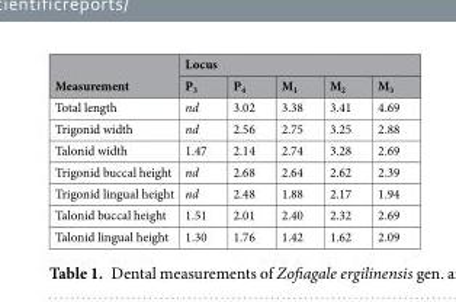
<table><thead><tr><td rowspan="2">Measurement</td><td colspan="5">Locus</td></tr><tr><td>P<sub>3</sub></td><td>P<sub>4</sub></td><td>M<sub>1</sub></td><td>M<sub>2</sub></td><td>M<sub>3</sub></td></tr></thead><tbody><tr><td>Total length</td><td>nd</td><td>3.02</td><td>3.38</td><td>3.41</td><td>4.69</td></tr><tr><td>Trigonid width</td><td>nd</td><td>2.56</td><td>2.75</td><td>3.25</td><td>2.88</td></tr><tr><td>Talonid width</td><td>1.47</td><td>2.14</td><td>2.74</td><td>3.28</td><td>2.69</td></tr><tr><td>Trigonid buccal height</td><td>nd</td><td>2.68</td><td>2.64</td><td>2.62</td><td>2.39</td></tr><tr><td>Trigonid lingual height</td><td>nd</td><td>2.48</td><td>1.88</td><td>2.17</td><td>1.94</td></tr><tr><td>Talonid buccal height</td><td>1.51</td><td>2.01</td><td>2.40</td><td>2.32</td><td>2.69</td></tr><tr><td>Talonid lingual height</td><td>1.30</td><td>1.76</td><td>1.42</td><td>1.62</td><td>2.09</td></tr></tbody></table>